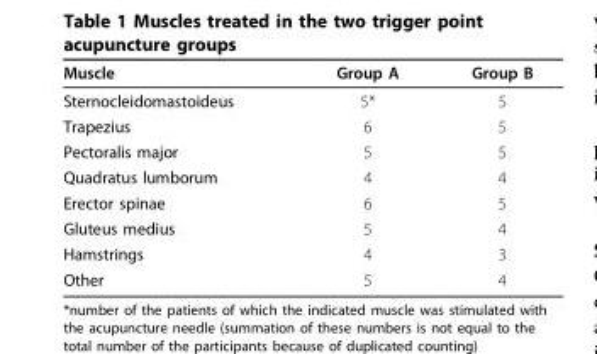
<table><thead><tr><td>Muscle</td><td>Group A</td><td>Group B</td></tr></thead><tbody><tr><td>Sternocleidomastoideus</td><td>5*</td><td>5</td></tr><tr><td>Trapezius</td><td>6</td><td>5</td></tr><tr><td>Pectoralis major</td><td>5</td><td>5</td></tr><tr><td>Quadratus lumborum</td><td>4</td><td>4</td></tr><tr><td>Erector spinae</td><td>6</td><td>5</td></tr><tr><td>Gluteus medius</td><td>5</td><td>4</td></tr><tr><td>Hamstrings</td><td>4</td><td>3</td></tr><tr><td>Other</td><td>5</td><td>4</td></tr></tbody></table>